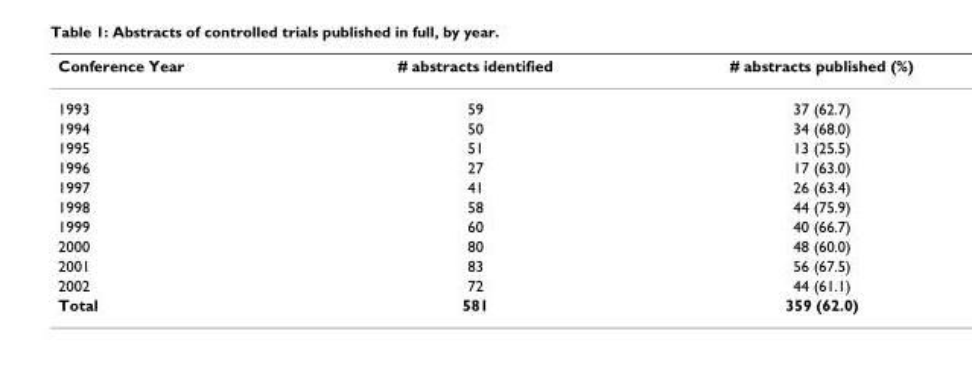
<table><thead><tr><td>Conference Year</td><td># abstracts identified</td><td># abstracts published (%)</td></tr></thead><tbody><tr><td>1993</td><td>59</td><td>37 (62.7)</td></tr><tr><td>1994</td><td>50</td><td>34 (68.0)</td></tr><tr><td>1995</td><td>51</td><td>13 (25.5)</td></tr><tr><td>1996</td><td>27</td><td>17 (63.0)</td></tr><tr><td>1997</td><td>41</td><td>26 (63.4)</td></tr><tr><td>1998</td><td>58</td><td>44 (75.9)</td></tr><tr><td>1999</td><td>60</td><td>40 (66.7)</td></tr><tr><td>2000</td><td>80</td><td>48 (60.0)</td></tr><tr><td>2001</td><td>83</td><td>56 (67.5)</td></tr><tr><td>2002</td><td>72</td><td>44 (61.1)</td></tr><tr><td>Total</td><td>581</td><td>359 (62.0)</td></tr></tbody></table>